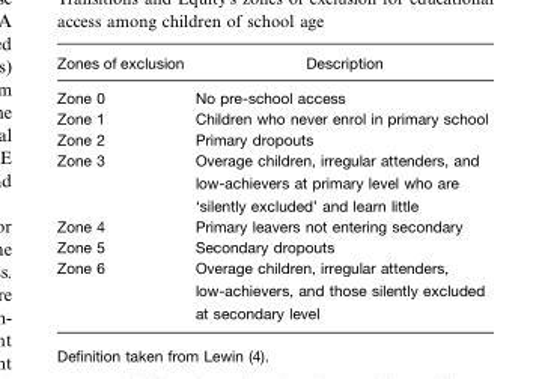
<table><thead><tr><td>Zones of exclusion</td><td>Description</td></tr></thead><tbody><tr><td>Zone 0</td><td>No pre-school access</td></tr><tr><td>Zone 1</td><td>Children who never enrol in primary school</td></tr><tr><td>Zone 2</td><td>Primary dropouts</td></tr><tr><td>Zone 3</td><td>Overage children, irregular attenders, and low-achievers at primary level who are ‘silently excluded’ and learn little</td></tr><tr><td>Zone 4</td><td>Primary leavers not entering secondary</td></tr><tr><td>Zone 5</td><td>Secondary dropouts</td></tr><tr><td>Zone 6</td><td>Overage children, irregular attenders, low-achievers, and those silently excluded at secondary level</td></tr></tbody></table>